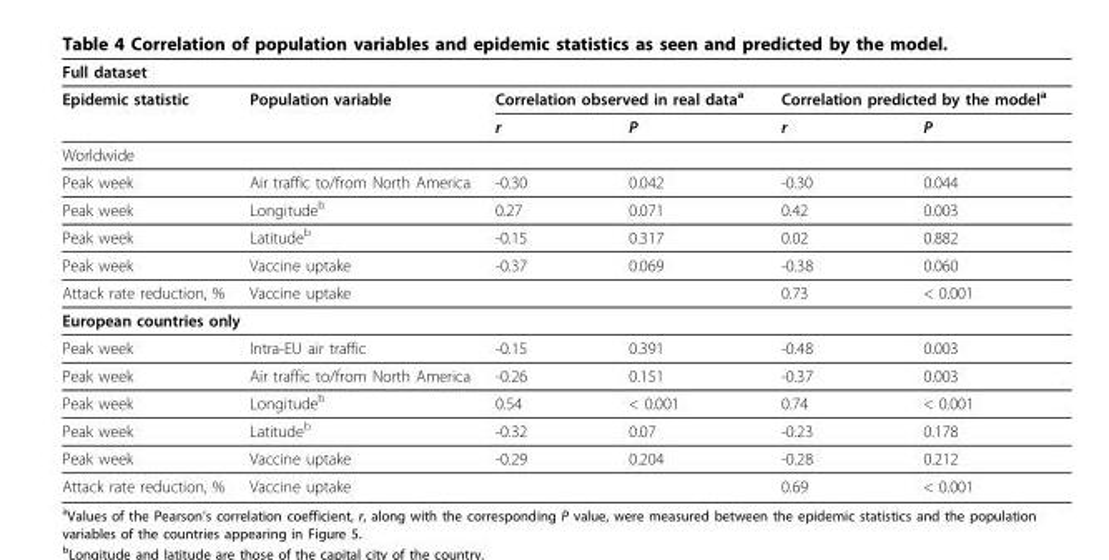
<table><thead><tr><td colspan="6">Full dataset</td></tr><tr><td rowspan="2">Epidemic statistic</td><td rowspan="2">Population variable</td><td colspan="2">Correlation observed in real data<sup>a</sup></td><td colspan="2">Correlation predicted by the model<sup>a</sup></td></tr><tr><td>r</td><td>P</td><td>r</td><td>P</td></tr></thead><tbody><tr><td colspan="6">Worldwide</td></tr><tr><td>Peak week</td><td>Air traffic to/from North America</td><td>-0.30</td><td>0.042</td><td>-0.30</td><td>0.044</td></tr><tr><td>Peak week</td><td>Longitude<sup>b</sup></td><td>0.27</td><td>0.071</td><td>0.42</td><td>0.003</td></tr><tr><td>Peak week</td><td>Latitude<sup>b</sup></td><td>-0.15</td><td>0.317</td><td>0.02</td><td>0.882</td></tr><tr><td>Peak week</td><td>Vaccine uptake</td><td>-0.37</td><td>0.069</td><td>-0.38</td><td>0.060</td></tr><tr><td>Attack rate reduction, %</td><td>Vaccine uptake</td><td></td><td></td><td>0.73</td><td>&lt; 0.001</td></tr><tr><td colspan="6">European countries only</td></tr><tr><td>Peak week</td><td>Intra-EU air traffic</td><td>-0.15</td><td>0.391</td><td>-0.48</td><td>0.003</td></tr><tr><td>Peak week</td><td>Air traffic to/from North America</td><td>-0.26</td><td>0.151</td><td>-0.37</td><td>0.003</td></tr><tr><td>Peak week</td><td>Longitude<sup>b</sup></td><td>0.54</td><td>&lt; 0.001</td><td>0.74</td><td>&lt; 0.001</td></tr><tr><td>Peak week</td><td>Latitude<sup>b</sup></td><td>-0.32</td><td>0.07</td><td>-0.23</td><td>0.178</td></tr><tr><td>Peak week</td><td>Vaccine uptake</td><td>-0.29</td><td>0.204</td><td>-0.28</td><td>0.212</td></tr><tr><td>Attack rate reduction, %</td><td>Vaccine uptake</td><td></td><td></td><td>0.69</td><td>&lt; 0.001</td></tr></tbody></table>